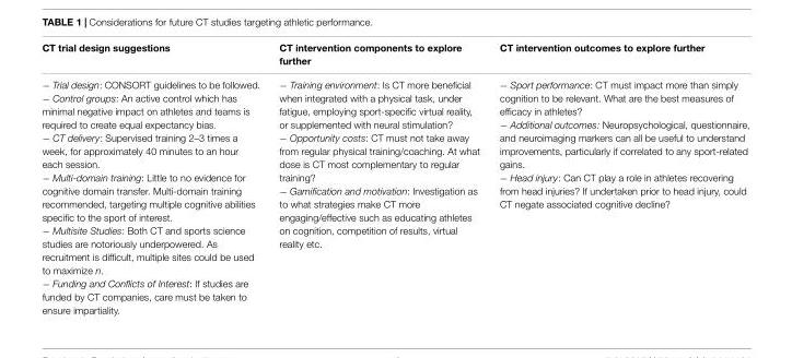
<table><thead><tr><td>CT trial design suggestions</td><td>CT intervention components to explore further</td><td>CT intervention outcomes to explore further</td></tr></thead><tbody><tr><td>− Trial design: CONSORT guidelines to be followed. − Control groups: An active control which has minimal negative impact on athletes and teams is required to create equal expectancy bias. − CT delivery: Supervised training 2–3 times a week, for approximately 40 minutes to an hour each session. − Multi-domain training: Little to no evidence for cognitive domain transfer. Multi-domain training recommended, targeting multiple cognitive abilities specific to the sport of interest. − Multisite Studies: Both CT and sports science studies are notoriously underpowered. As recruitment is difficult, multiple sites could be used to maximize n. − Funding and Conflicts of Interest: If studies are funded by CT companies, care must be taken to ensure impartiality.</td><td>− Training environment: Is CT more beneficial when integrated with a physical task, under fatigue, employing sport-specific virtual reality, or supplemented with neural stimulation? − Opportunity costs: CT must not take away from regular physical training/coaching. At what dose is CT most complementary to regular training? − Gamification and motivation: Investigation as to what strategies make CT more engaging/effective such as educating athletes on cognition, competition of results, virtual reality etc.</td><td>− Sport performance: CT must impact more than simply cognition to be relevant. What are the best measures of efficacy in athletes? − Additional outcomes: Neuropsychological, questionnaire, and neuroimaging markers can all be useful to understand improvements, particularly if correlated to any sport-related gains. − Head injury: Can CT play a role in athletes recovering from head injuries? If undertaken prior to head injury, could CT negate associated cognitive decline?</td></tr></tbody></table>